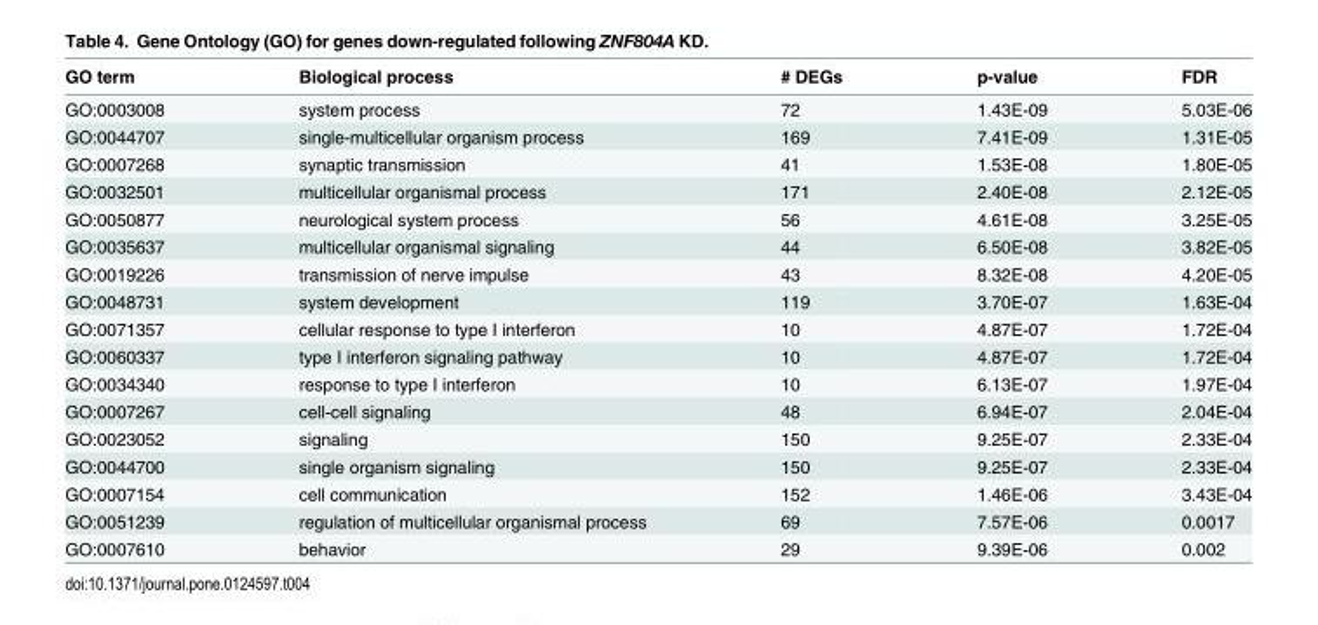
<table><thead><tr><td>GO term</td><td>Biological process</td><td># DEGs</td><td>p-value</td><td>FDR</td></tr></thead><tbody><tr><td>GO:0003008</td><td>system process</td><td>72</td><td>1.43E-09</td><td>5.03E-06</td></tr><tr><td>GO:0044707</td><td>single-multicellular organism process</td><td>169</td><td>7.41E-09</td><td>1.31E-05</td></tr><tr><td>GO:0007268</td><td>synaptic transmission</td><td>41</td><td>1.53E-08</td><td>1.80E-05</td></tr><tr><td>GO:0032501</td><td>multicellular organismal process</td><td>171</td><td>2.40E-08</td><td>2.12E-05</td></tr><tr><td>GO:0050877</td><td>neurological system process</td><td>56</td><td>4.61E-08</td><td>3.25E-05</td></tr><tr><td>GO:0035637</td><td>multicellular organismal signaling</td><td>44</td><td>6.50E-08</td><td>3.82E-05</td></tr><tr><td>GO:0019226</td><td>transmission of nerve impulse</td><td>43</td><td>8.32E-08</td><td>4.20E-05</td></tr><tr><td>GO:0048731</td><td>system development</td><td>119</td><td>3.70E-07</td><td>1.63E-04</td></tr><tr><td>GO:0071357</td><td>cellular response to type I interferon</td><td>10</td><td>4.87E-07</td><td>1.72E-04</td></tr><tr><td>GO:0060337</td><td>type I interferon signaling pathway</td><td>10</td><td>4.87E-07</td><td>1.72E-04</td></tr><tr><td>GO:0034340</td><td>response to type I interferon</td><td>10</td><td>6.13E-07</td><td>1.97E-04</td></tr><tr><td>GO:0007267</td><td>cell-cell signaling</td><td>48</td><td>6.94E-07</td><td>2.04E-04</td></tr><tr><td>GO:0023052</td><td>signaling</td><td>150</td><td>9.25E-07</td><td>2.33E-04</td></tr><tr><td>GO:0044700</td><td>single organism signaling</td><td>150</td><td>9.25E-07</td><td>2.33E-04</td></tr><tr><td>GO:0007154</td><td>cell communication</td><td>152</td><td>1.46E-06</td><td>3.43E-04</td></tr><tr><td>GO:0051239</td><td>regulation of multicellular organismal process</td><td>69</td><td>7.57E-06</td><td>0.0017</td></tr><tr><td>GO:0007610</td><td>behavior</td><td>29</td><td>9.39E-06</td><td>0.002</td></tr></tbody></table>